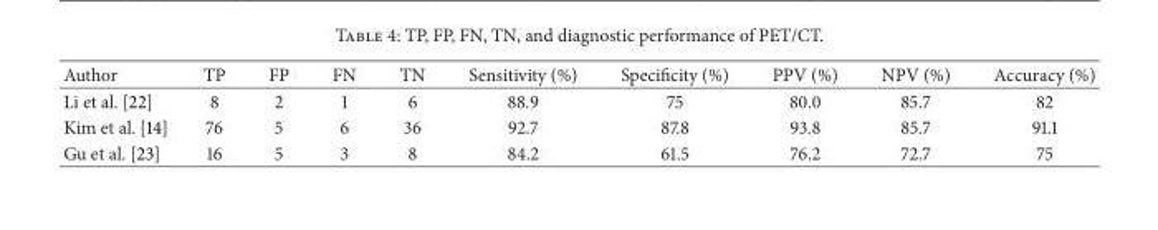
<table><thead><tr><td>Author</td><td>TP</td><td>FP</td><td>FN</td><td>TN</td><td>Sensitivity (%)</td><td>Specificity (%)</td><td>PPV (%)</td><td>NPV (%)</td><td>Accuracy (%)</td></tr></thead><tbody><tr><td>Li et al. [22]</td><td>8</td><td>2</td><td>1</td><td>6</td><td>88.9</td><td>75</td><td>80.0</td><td>85.7</td><td>82</td></tr><tr><td>Kim et al. [14]</td><td>76</td><td>5</td><td>6</td><td>36</td><td>92.7</td><td>87.8</td><td>93.8</td><td>85.7</td><td>91.1</td></tr><tr><td>Gu et al. [23]</td><td>16</td><td>5</td><td>3</td><td>8</td><td>84.2</td><td>61.5</td><td>76.2</td><td>72.7</td><td>75</td></tr></tbody></table>